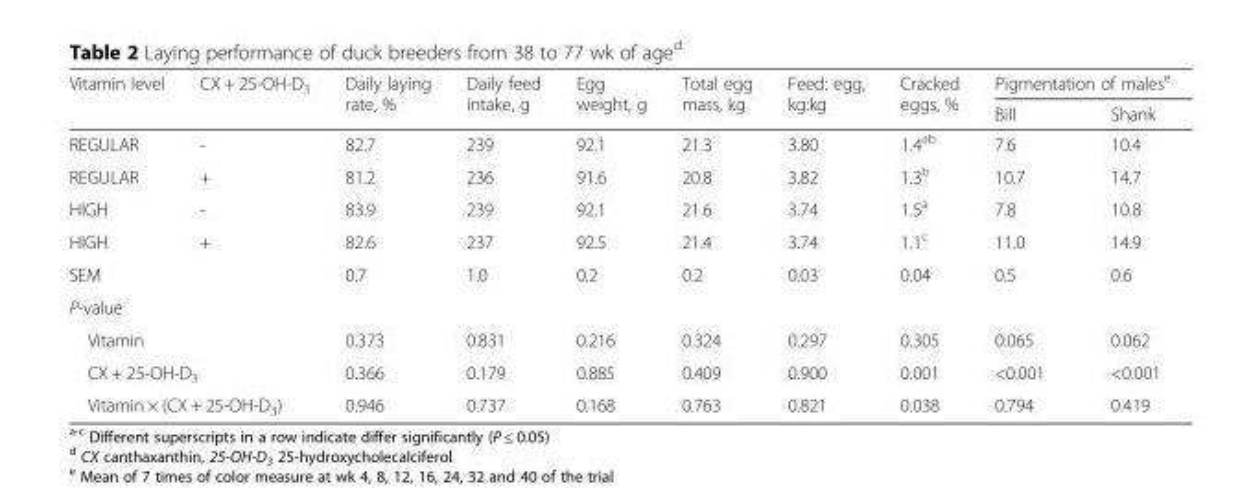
<table><thead><tr><td rowspan="2">Vitamin level</td><td rowspan="2">CX + 25-OH-D<sub>3</sub></td><td rowspan="2">Daily laying rate, %</td><td rowspan="2">Daily feed intake, g</td><td rowspan="2">Egg weight, g</td><td rowspan="2">Total egg mass, kg</td><td rowspan="2">Feed: egg, kg:kg</td><td rowspan="2">Cracked eggs, %</td><td colspan="2">Pigmentation of males<sup>e</sup></td></tr><tr><td>Bill</td><td>Shank</td></tr></thead><tbody><tr><td>REGULAR</td><td>-</td><td>82.7</td><td>239</td><td>92.1</td><td>21.3</td><td>3.80</td><td>1.4<sup>ab</sup></td><td>7.6</td><td>10.4</td></tr><tr><td>REGULAR</td><td>+</td><td>81.2</td><td>236</td><td>91.6</td><td>20.8</td><td>3.82</td><td>1.3<sup>b</sup></td><td>10.7</td><td>14.7</td></tr><tr><td>HIGH</td><td>-</td><td>83.9</td><td>239</td><td>92.1</td><td>21.6</td><td>3.74</td><td>1.5<sup>a</sup></td><td>7.8</td><td>10.8</td></tr><tr><td>HIGH</td><td>+</td><td>82.6</td><td>237</td><td>92.5</td><td>21.4</td><td>3.74</td><td>1.1<sup>c</sup></td><td>11.0</td><td>14.9</td></tr><tr><td>SEM</td><td></td><td>0.7</td><td>1.0</td><td>0.2</td><td>0.2</td><td>0.03</td><td>0.04</td><td>0.5</td><td>0.6</td></tr><tr><td colspan="10">P-value</td></tr><tr><td colspan="2">Vitamin</td><td>0.373</td><td>0.831</td><td>0.216</td><td>0.324</td><td>0.297</td><td>0.305</td><td>0.065</td><td>0.062</td></tr><tr><td colspan="2">CX + 25-OH-D<sub>3</sub></td><td>0.366</td><td>0.179</td><td>0.885</td><td>0.409</td><td>0.900</td><td>0.001</td><td>&lt;0.001</td><td>&lt;0.001</td></tr><tr><td colspan="2">Vitamin × (CX + 25-OH-D<sub>3</sub>)</td><td>0.946</td><td>0.737</td><td>0.168</td><td>0.763</td><td>0.821</td><td>0.038</td><td>0.794</td><td>0.419</td></tr></tbody></table>